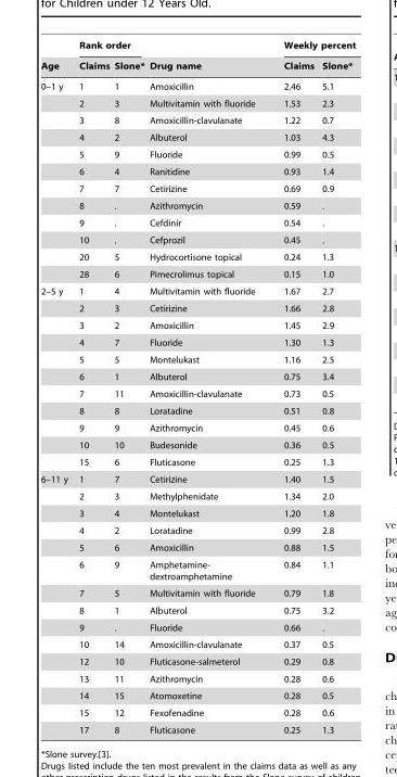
<table><thead><tr><td rowspan="2">Age</td><td colspan="2">Rank order</td><td rowspan="2">Drug name</td><td colspan="2">Weekly percent</td></tr><tr><td>Claims</td><td>Slone*</td><td>Claims</td><td>Slone*</td></tr></thead><tbody><tr><td rowspan="12">0–1 y</td><td>1</td><td>1</td><td>Amoxicillin</td><td>2.46</td><td>5.1</td></tr><tr><td>2</td><td>3</td><td>Multivitamin with fluoride</td><td>1.53</td><td>2.3</td></tr><tr><td>3</td><td>8</td><td>Amoxicillin-clavulanate</td><td>1.22</td><td>0.7</td></tr><tr><td>4</td><td>2</td><td>Albuterol</td><td>1.03</td><td>4.3</td></tr><tr><td>5</td><td>9</td><td>Fluoride</td><td>0.99</td><td>0.5</td></tr><tr><td>6</td><td>4</td><td>Ranitidine</td><td>0.93</td><td>1.4</td></tr><tr><td>7</td><td>7</td><td>Cetirizine</td><td>0.69</td><td>0.9</td></tr><tr><td>8</td><td>.</td><td>Azithromycin</td><td>0.59</td><td>.</td></tr><tr><td>9</td><td>.</td><td>Cefdinir</td><td>0.54</td><td>.</td></tr><tr><td>10</td><td>.</td><td>Cefprozil</td><td>0.45</td><td>.</td></tr><tr><td>20</td><td>5</td><td>Hydrocortisone topical</td><td>0.24</td><td>1.3</td></tr><tr><td>28</td><td>6</td><td>Pimecrolimus topical</td><td>0.15</td><td>1.0</td></tr><tr><td rowspan="11">2–5 y</td><td>1</td><td>4</td><td>Multivitamin with fluoride</td><td>1.67</td><td>2.7</td></tr><tr><td>2</td><td>3</td><td>Cetirizine</td><td>1.66</td><td>2.8</td></tr><tr><td>3</td><td>2</td><td>Amoxicillin</td><td>1.45</td><td>2.9</td></tr><tr><td>4</td><td>7</td><td>Fluoride</td><td>1.30</td><td>1.3</td></tr><tr><td>5</td><td>5</td><td>Montelukast</td><td>1.16</td><td>2.5</td></tr><tr><td>6</td><td>1</td><td>Albuterol</td><td>0.75</td><td>3.4</td></tr><tr><td>7</td><td>11</td><td>Amoxicillin-clavulanate</td><td>0.73</td><td>0.5</td></tr><tr><td>8</td><td>8</td><td>Loratadine</td><td>0.51</td><td>0.8</td></tr><tr><td>9</td><td>9</td><td>Azithromycin</td><td>0.45</td><td>0.6</td></tr><tr><td>10</td><td>10</td><td>Budesonide</td><td>0.36</td><td>0.5</td></tr><tr><td>15</td><td>6</td><td>Fluticasone</td><td>0.25</td><td>1.3</td></tr><tr><td rowspan="15">6–11 y</td><td>1</td><td>7</td><td>Cetirizine</td><td>1.40</td><td>1.5</td></tr><tr><td>2</td><td>3</td><td>Methylphenidate</td><td>1.34</td><td>2.0</td></tr><tr><td>3</td><td>4</td><td>Montelukast</td><td>1.20</td><td>1.8</td></tr><tr><td>4</td><td>2</td><td>Loratadine</td><td>0.99</td><td>2.8</td></tr><tr><td>5</td><td>6</td><td>Amoxicillin</td><td>0.88</td><td>1.5</td></tr><tr><td>6</td><td>9</td><td>Amphetamine- dextroamphetamine</td><td>0.84</td><td>1.1</td></tr><tr><td>7</td><td>5</td><td>Multivitamin with fluoride</td><td>0.79</td><td>1.8</td></tr><tr><td>8</td><td>1</td><td>Albuterol</td><td>0.75</td><td>3.2</td></tr><tr><td>9</td><td>.</td><td>Fluoride</td><td>0.66</td><td>.</td></tr><tr><td>10</td><td>14</td><td>Amoxicillin-clavulanate</td><td>0.37</td><td>0.5</td></tr><tr><td>12</td><td>10</td><td>Fluticasone-salmeterol</td><td>0.29</td><td>0.8</td></tr><tr><td>13</td><td>11</td><td>Azithromycin</td><td>0.28</td><td>0.6</td></tr><tr><td>14</td><td>15</td><td>Atomoxetine</td><td>0.28</td><td>0.5</td></tr><tr><td>15</td><td>12</td><td>Fexofenadine</td><td>0.28</td><td>0.6</td></tr><tr><td>17</td><td>8</td><td>Fluticasone</td><td>0.25</td><td>1.3</td></tr></tbody></table>